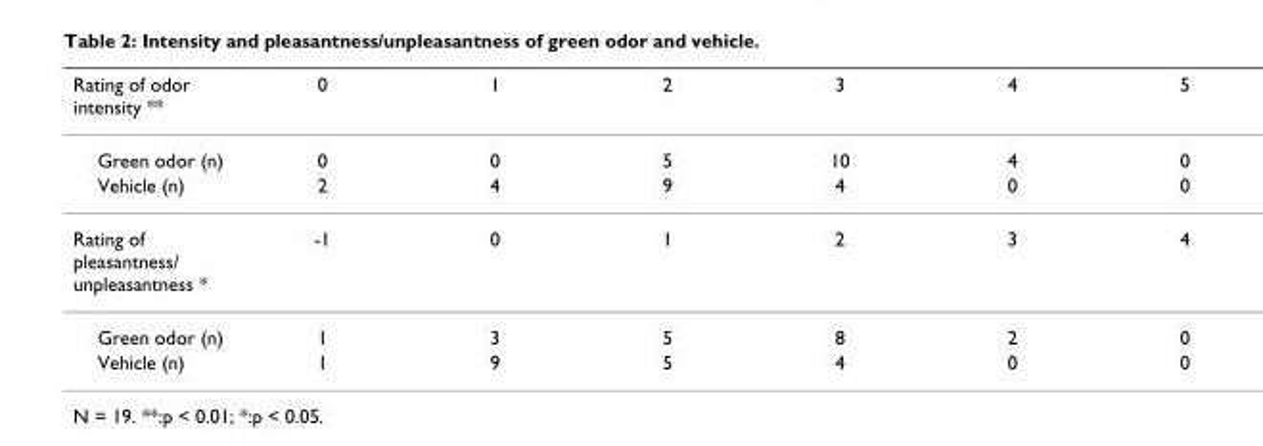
<table><thead><tr><td>Rating of odor intensity **</td><td>0</td><td>1</td><td>2</td><td>3</td><td>4</td><td>5</td></tr></thead><tbody><tr><td>Green odor (n)</td><td>0</td><td>0</td><td>5</td><td>10</td><td>4</td><td>0</td></tr><tr><td>Vehicle (n)</td><td>2</td><td>4</td><td>9</td><td>4</td><td>0</td><td>0</td></tr><tr><td>Rating of pleasantness/ unpleasantness *</td><td>-1</td><td>0</td><td>1</td><td>2</td><td>3</td><td>4</td></tr><tr><td>Green odor (n)</td><td>1</td><td>3</td><td>5</td><td>8</td><td>2</td><td>0</td></tr><tr><td>Vehicle (n)</td><td>1</td><td>9</td><td>5</td><td>4</td><td>0</td><td>0</td></tr></tbody></table>